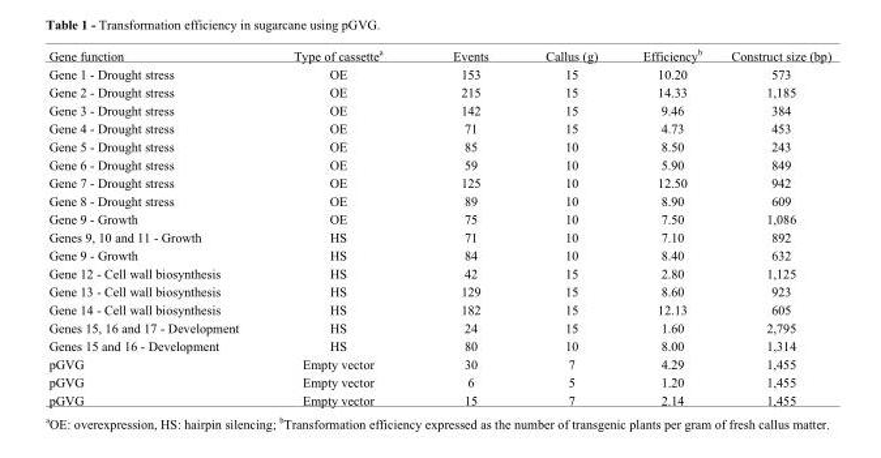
<table><thead><tr><td>Gene function</td><td>Type of cassette<sup>a</sup></td><td>Events</td><td>Callus (g)</td><td>Efficiency<sup>b</sup></td><td>Construct size (bp)</td></tr></thead><tbody><tr><td>Gene 1 - Drought stress</td><td>OE</td><td>153</td><td>15</td><td>10.20</td><td>573</td></tr><tr><td>Gene 2 - Drought stress</td><td>OE</td><td>215</td><td>15</td><td>14.33</td><td>1,185</td></tr><tr><td>Gene 3 - Drought stress</td><td>OE</td><td>142</td><td>15</td><td>9.46</td><td>384</td></tr><tr><td>Gene 4 - Drought stress</td><td>OE</td><td>71</td><td>15</td><td>4.73</td><td>453</td></tr><tr><td>Gene 5 - Drought stress</td><td>OE</td><td>85</td><td>10</td><td>8.50</td><td>243</td></tr><tr><td>Gene 6 - Drought stress</td><td>OE</td><td>59</td><td>10</td><td>5.90</td><td>849</td></tr><tr><td>Gene 7 - Drought stress</td><td>OE</td><td>125</td><td>10</td><td>12.50</td><td>942</td></tr><tr><td>Gene 8 - Drought stress</td><td>OE</td><td>89</td><td>10</td><td>8.90</td><td>609</td></tr><tr><td>Gene 9 - Growth</td><td>OE</td><td>75</td><td>10</td><td>7.50</td><td>1,086</td></tr><tr><td>Genes 9, 10 and 11 - Growth</td><td>HS</td><td>71</td><td>10</td><td>7.10</td><td>892</td></tr><tr><td>Gene 9 - Growth</td><td>HS</td><td>84</td><td>10</td><td>8.40</td><td>632</td></tr><tr><td>Gene 12 - Cell wall biosynthesis</td><td>HS</td><td>42</td><td>15</td><td>2.80</td><td>1,125</td></tr><tr><td>Gene 13 - Cell wall biosynthesis</td><td>HS</td><td>129</td><td>15</td><td>8.60</td><td>923</td></tr><tr><td>Gene 14 - Cell wall biosynthesis</td><td>HS</td><td>182</td><td>15</td><td>12.13</td><td>605</td></tr><tr><td>Genes 15, 16 and 17 - Development</td><td>HS</td><td>24</td><td>15</td><td>1.60</td><td>2,795</td></tr><tr><td>Genes 15 and 16 - Development</td><td>HS</td><td>80</td><td>10</td><td>8.00</td><td>1,314</td></tr><tr><td>pGVG</td><td>Empty vector</td><td>30</td><td>7</td><td>4.29</td><td>1,455</td></tr><tr><td>pGVG</td><td>Empty vector</td><td>6</td><td>5</td><td>1.20</td><td>1,455</td></tr><tr><td>pGVG</td><td>Empty vector</td><td>15</td><td>7</td><td>2.14</td><td>1,455</td></tr></tbody></table>